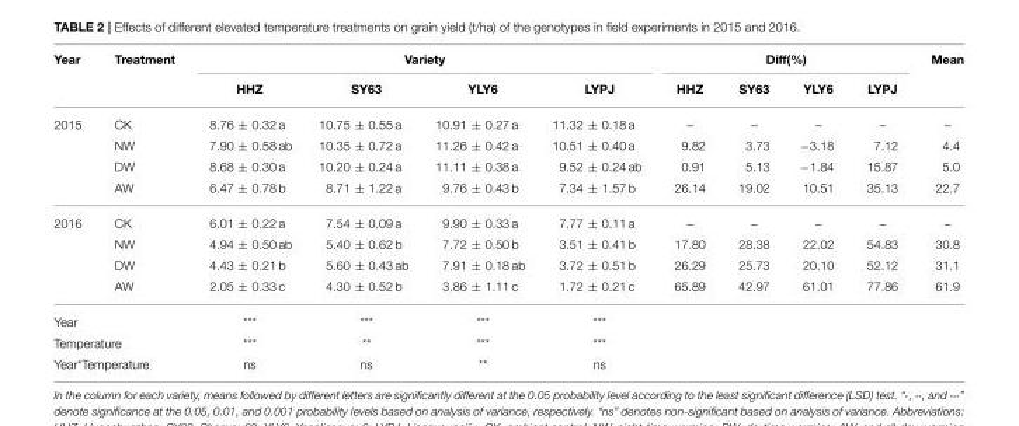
<table><thead><tr><td rowspan="2">Year</td><td rowspan="2">Treatment</td><td colspan="4">Variety</td><td colspan="4">Diff(%)</td><td rowspan="2">Mean</td></tr><tr><td>HHZ</td><td>SY63</td><td>YLY6</td><td>LYPJ</td><td>HHZ</td><td>SY63</td><td>YLY6</td><td>LYPJ</td></tr></thead><tbody><tr><td rowspan="4">2015</td><td>CK</td><td>8.76 ± 0.32 a</td><td>10.75 ± 0.55 a</td><td>10.91 ± 0.27 a</td><td>11.32 ± 0.18 a</td><td>–</td><td>–</td><td>–</td><td>–</td><td>–</td></tr><tr><td>NW</td><td>7.90 ± 0.58 ab</td><td>10.35 ± 0.72 a</td><td>11.26 ± 0.42 a</td><td>10.51 ± 0.40 a</td><td>9.82</td><td>3.73</td><td>−3.18</td><td>7.12</td><td>4.4</td></tr><tr><td>DW</td><td>8.68 ± 0.30 a</td><td>10.20 ± 0.24 a</td><td>11.11 ± 0.38 a</td><td>9.52 ± 0.24 ab</td><td>0.91</td><td>5.13</td><td>−1.84</td><td>15.87</td><td>5.0</td></tr><tr><td>AW</td><td>6.47 ± 0.78 b</td><td>8.71 ± 1.22 a</td><td>9.76 ± 0.43 b</td><td>7.34 ± 1.57 b</td><td>26.14</td><td>19.02</td><td>10.51</td><td>35.13</td><td>22.7</td></tr><tr><td rowspan="4">2016</td><td>CK</td><td>6.01 ± 0.22 a</td><td>7.54 ± 0.09 a</td><td>9.90 ± 0.33 a</td><td>7.77 ± 0.11 a</td><td>–</td><td>–</td><td>–</td><td>–</td><td>–</td></tr><tr><td>NW</td><td>4.94 ± 0.50 ab</td><td>5.40 ± 0.62 b</td><td>7.72 ± 0.50 b</td><td>3.51 ± 0.41 b</td><td>17.80</td><td>28.38</td><td>22.02</td><td>54.83</td><td>30.8</td></tr><tr><td>DW</td><td>4.43 ± 0.21 b</td><td>5.60 ± 0.43 ab</td><td>7.91 ± 0.18 ab</td><td>3.72 ± 0.51 b</td><td>26.29</td><td>25.73</td><td>20.10</td><td>52.12</td><td>31.1</td></tr><tr><td>AW</td><td>2.05 ± 0.33 c</td><td>4.30 ± 0.52 b</td><td>3.86 ± 1.11 c</td><td>1.72 ± 0.21 c</td><td>65.89</td><td>42.97</td><td>61.01</td><td>77.86</td><td>61.9</td></tr><tr><td colspan="2">Year</td><td>***</td><td>***</td><td>***</td><td>***</td><td></td><td></td><td></td><td></td><td></td></tr><tr><td colspan="2">Temperature</td><td>***</td><td>**</td><td>***</td><td>***</td><td></td><td></td><td></td><td></td><td></td></tr><tr><td colspan="2">Year*Temperature</td><td>ns</td><td>ns</td><td>**</td><td>ns</td><td></td><td></td><td></td><td></td><td></td></tr></tbody></table>